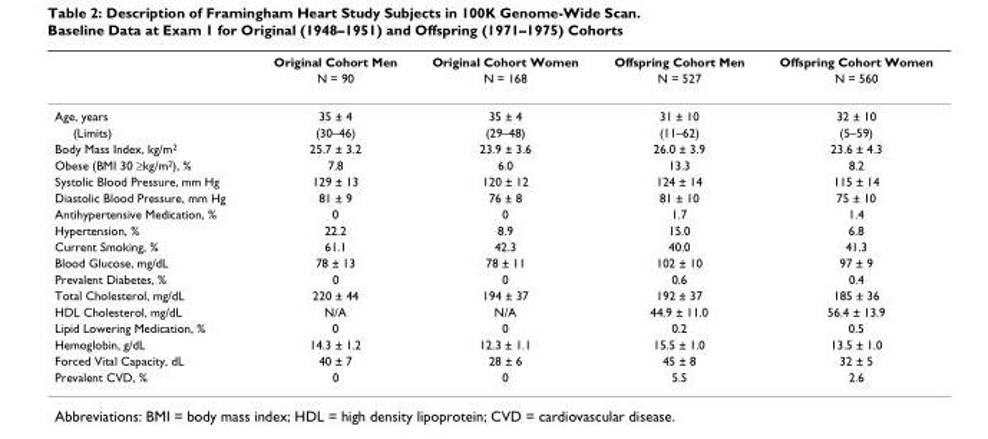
<table><thead><tr><td rowspan="2"></td><td rowspan="2">Original Cohort Men N = 90</td><td rowspan="2">Original Cohort Women N = 168</td><td rowspan="2">Offspring Cohort Men N = 527</td><td rowspan="2">Offspring Cohort Women N = 560</td></tr><tr></tr></thead><tbody><tr><td>Age, years</td><td>35 ± 4</td><td>35 ± 4</td><td>31 ± 10</td><td>32 ± 10</td></tr><tr><td>(Limits)</td><td>(30–46)</td><td>(29–48)</td><td>(11–62)</td><td>(5–59)</td></tr><tr><td>Body Mass Index, kg/m<sup>2</sup></td><td>25.7 ± 3.2</td><td>23.9 ± 3.6</td><td>26.0 ± 3.9</td><td>23.6 ± 4.3</td></tr><tr><td>Obese (BMI 30 ≥kg/m<sup>2</sup>), %</td><td>7.8</td><td>6.0</td><td>13.3</td><td>8.2</td></tr><tr><td>Systolic Blood Pressure, mm Hg</td><td>129 ± 13</td><td>120 ± 12</td><td>124 ± 14</td><td>115 ± 14</td></tr><tr><td>Diastolic Blood Pressure, mm Hg</td><td>81 ± 9</td><td>76 ± 8</td><td>81 ± 10</td><td>75 ± 10</td></tr><tr><td>Antihypertensive Medication, %</td><td>0</td><td>0</td><td>1.7</td><td>1.4</td></tr><tr><td>Hypertension, %</td><td>22.2</td><td>8.9</td><td>15.0</td><td>6.8</td></tr><tr><td>Current Smoking, %</td><td>61.1</td><td>42.3</td><td>40.0</td><td>41.3</td></tr><tr><td>Blood Glucose, mg/dL</td><td>78 ± 13</td><td>78 ± 11</td><td>102 ± 10</td><td>97 ± 9</td></tr><tr><td>Prevalent Diabetes, %</td><td>0</td><td>0</td><td>0.6</td><td>0.4</td></tr><tr><td>Total Cholesterol, mg/dL</td><td>220 ± 44</td><td>194 ± 37</td><td>192 ± 37</td><td>185 ± 36</td></tr><tr><td>HDL Cholesterol, mg/dL</td><td>N/A</td><td>N/A</td><td>44.9 ± 11.0</td><td>56.4 ± 13.9</td></tr><tr><td>Lipid Lowering Medication, %</td><td>0</td><td>0</td><td>0.2</td><td>0.5</td></tr><tr><td>Hemoglobin, g/dL</td><td>14.3 ± 1.2</td><td>12.3 ± 1.1</td><td>15.5 ± 1.0</td><td>13.5 ± 1.0</td></tr><tr><td>Forced Vital Capacity, dL</td><td>40 ± 7</td><td>28 ± 6</td><td>45 ± 8</td><td>32 ± 5</td></tr><tr><td>Prevalent CVD, %</td><td>0</td><td>0</td><td>5.5</td><td>2.6</td></tr></tbody></table>